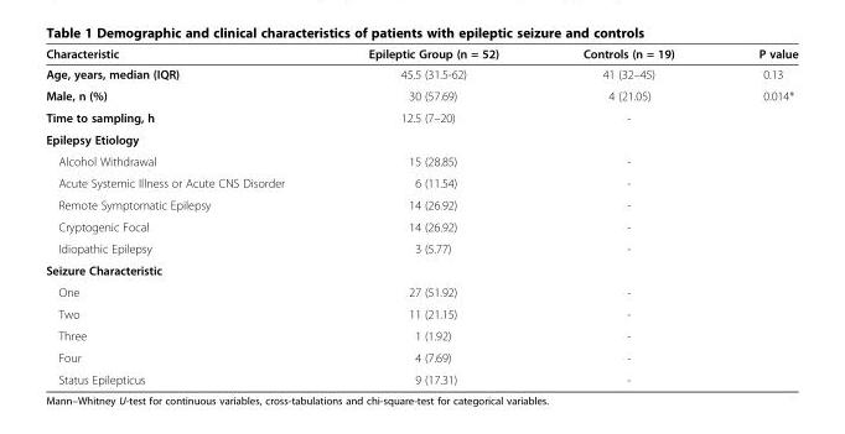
<table><thead><tr><td>Characteristic</td><td>Epileptic Group (n = 52)</td><td>Controls (n = 19)</td><td>P value</td></tr></thead><tbody><tr><td>Age, years, median (IQR)</td><td>45.5 (31.5-62)</td><td>41 (32–45)</td><td>0.13</td></tr><tr><td>Male, n (%)</td><td>30 (57.69)</td><td>4 (21.05)</td><td>0.014*</td></tr><tr><td>Time to sampling, h</td><td>12.5 (7–20)</td><td>-</td><td></td></tr><tr><td colspan="4">Epilepsy Etiology</td></tr><tr><td>Alcohol Withdrawal</td><td>15 (28.85)</td><td>-</td><td></td></tr><tr><td>Acute Systemic Illness or Acute CNS Disorder</td><td>6 (11.54)</td><td>-</td><td></td></tr><tr><td>Remote Symptomatic Epilepsy</td><td>14 (26.92)</td><td>-</td><td></td></tr><tr><td>Cryptogenic Focal</td><td>14 (26.92)</td><td>-</td><td></td></tr><tr><td>Idiopathic Epilepsy</td><td>3 (5.77)</td><td>-</td><td></td></tr><tr><td colspan="4">Seizure Characteristic</td></tr><tr><td>One</td><td>27 (51.92)</td><td>-</td><td></td></tr><tr><td>Two</td><td>11 (21.15)</td><td>-</td><td></td></tr><tr><td>Three</td><td>1 (1.92)</td><td>-</td><td></td></tr><tr><td>Four</td><td>4 (7.69)</td><td>-</td><td></td></tr><tr><td>Status Epilepticus</td><td>9 (17.31)</td><td>-</td><td></td></tr></tbody></table>